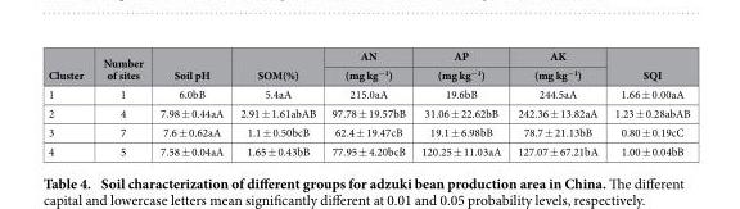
<table><thead><tr><td rowspan="2">Cluster</td><td rowspan="2">Number of sites</td><td rowspan="2">Soil pH</td><td rowspan="2">SOM(%)</td><td rowspan="2">AN (mg kg<sup>−1</sup>)</td><td rowspan="2">AP (mg kg<sup>−1</sup>)</td><td rowspan="2">AK (mg kg<sup>−1</sup>)</td><td rowspan="2">SQI</td></tr><tr></tr></thead><tbody><tr><td>1</td><td>1</td><td>6.0bB</td><td>5.4aA</td><td>215.0aA</td><td>19.6bB</td><td>244.5aA</td><td>1.66 ± 0.00aA</td></tr><tr><td>2</td><td>4</td><td>7.98 ± 0.44aA</td><td>2.91 ± 1.61abAB</td><td>97.78 ± 19.57bB</td><td>31.06 ± 22.62bB</td><td>242.36 ± 13.82aA</td><td>1.23 ± 0.28abAB</td></tr><tr><td>3</td><td>7</td><td>7.6 ± 0.62aA</td><td>1.1 ± 0.50bcB</td><td>62.4 ± 19.47cB</td><td>19.1 ± 6.98bB</td><td>78.7 ± 21.13bB</td><td>0.80 ± 0.19cC</td></tr><tr><td>4</td><td>5</td><td>7.58 ± 0.04aA</td><td>1.65 ± 0.43bB</td><td>77.95 ± 4.20bcB</td><td>120.25 ± 11.03aA</td><td>127.07 ± 67.21bA</td><td>1.00 ± 0.04bB</td></tr></tbody></table>